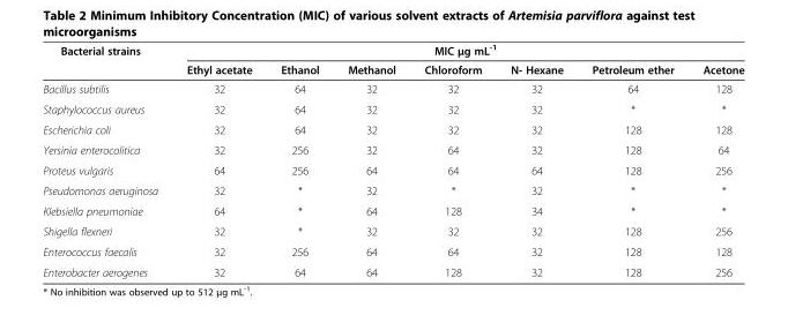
<table><thead><tr><td rowspan="2">Bacterial strains</td><td colspan="7">MIC μg mL<sup>-1</sup></td></tr><tr><td>Ethyl acetate</td><td>Ethanol</td><td>Methanol</td><td>Chloroform</td><td>N- Hexane</td><td>Petroleum ether</td><td>Acetone</td></tr></thead><tbody><tr><td>Bacillus subtilis</td><td>32</td><td>64</td><td>32</td><td>32</td><td>32</td><td>64</td><td>128</td></tr><tr><td>Staphylococcus aureus</td><td>32</td><td>64</td><td>32</td><td>32</td><td>32</td><td>*</td><td>*</td></tr><tr><td>Escherichia coli</td><td>32</td><td>64</td><td>32</td><td>32</td><td>32</td><td>128</td><td>128</td></tr><tr><td>Yersinia enterocolitica</td><td>32</td><td>256</td><td>32</td><td>64</td><td>32</td><td>128</td><td>64</td></tr><tr><td>Proteus vulgaris</td><td>64</td><td>256</td><td>64</td><td>64</td><td>64</td><td>128</td><td>256</td></tr><tr><td>Pseudomonas aeruginosa</td><td>32</td><td>*</td><td>32</td><td>*</td><td>32</td><td>*</td><td>*</td></tr><tr><td>Klebsiella pneumoniae</td><td>64</td><td>*</td><td>64</td><td>128</td><td>34</td><td>*</td><td>*</td></tr><tr><td>Shigella flexneri</td><td>32</td><td>*</td><td>32</td><td>32</td><td>32</td><td>128</td><td>256</td></tr><tr><td>Enterococcus faecalis</td><td>32</td><td>256</td><td>64</td><td>64</td><td>32</td><td>128</td><td>128</td></tr><tr><td>Enterobacter aerogenes</td><td>32</td><td>64</td><td>64</td><td>128</td><td>32</td><td>128</td><td>256</td></tr></tbody></table>